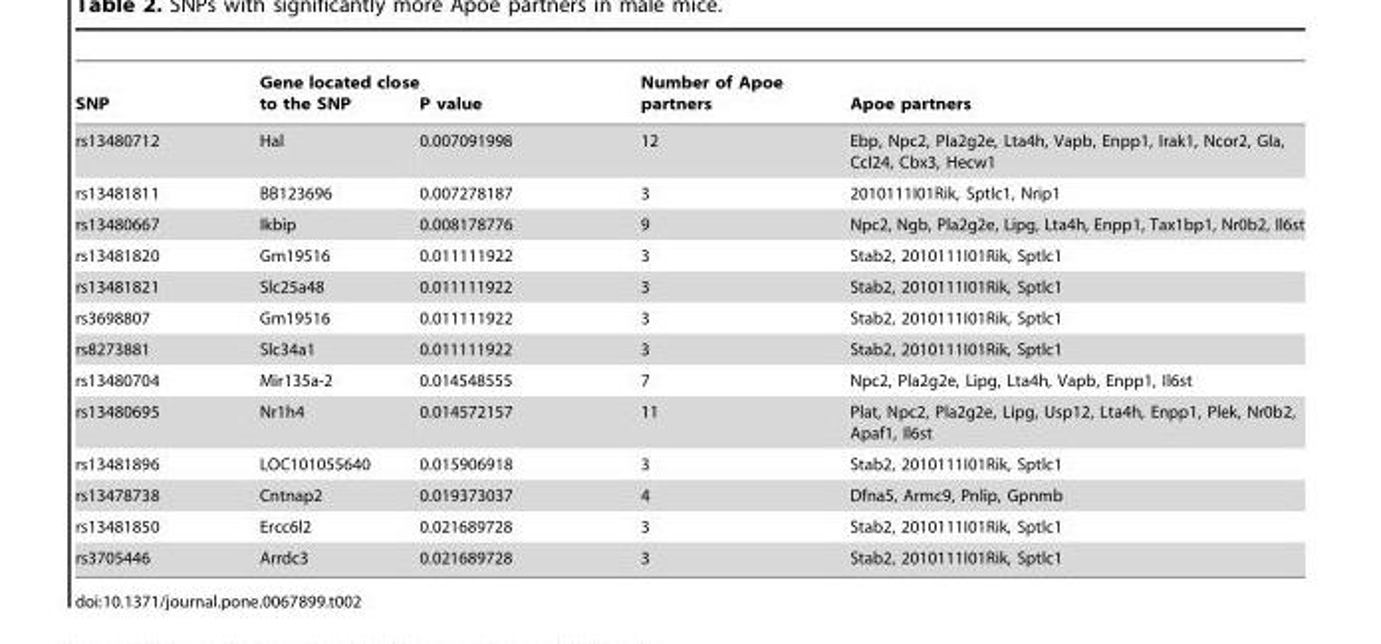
<table><thead><tr><td>SNP</td><td>Gene located close to the SNP</td><td>P value</td><td>Number of Apoe partners</td><td>Apoe partners</td></tr></thead><tbody><tr><td>rs13480712</td><td>Hal</td><td>0.007091998</td><td>12</td><td>Ebp, Npc2, Pla2g2e, Lta4h, Vapb, Enpp1, Irak1, Ncor2, Gla, Ccl24, Cbx3, Hecw1</td></tr><tr><td>rs13481811</td><td>BB123696</td><td>0.007278187</td><td>3</td><td>2010111I01Rik, Sptlc1, Nrip1</td></tr><tr><td>rs13480667</td><td>Ikbip</td><td>0.008178776</td><td>9</td><td>Npc2, Ngb, Pla2g2e, Lipg, Lta4h, Enpp1, Tax1bp1, Nr0b2, Il6st</td></tr><tr><td>rs13481820</td><td>Gm19516</td><td>0.011111922</td><td>3</td><td>Stab2, 2010111I01Rik, Sptlc1</td></tr><tr><td>rs13481821</td><td>Slc25a48</td><td>0.011111922</td><td>3</td><td>Stab2, 2010111I01Rik, Sptlc1</td></tr><tr><td>rs3698807</td><td>Gm19516</td><td>0.011111922</td><td>3</td><td>Stab2, 2010111I01Rik, Sptlc1</td></tr><tr><td>rs8273881</td><td>Slc34a1</td><td>0.011111922</td><td>3</td><td>Stab2, 2010111I01Rik, Sptlc1</td></tr><tr><td>rs13480704</td><td>Mir135a-2</td><td>0.014548555</td><td>7</td><td>Npc2, Pla2g2e, Lipg, Lta4h, Vapb, Enpp1, Il6st</td></tr><tr><td>rs13480695</td><td>Nr1h4</td><td>0.014572157</td><td>11</td><td>Plat, Npc2, Pla2g2e, Lipg, Usp12, Lta4h, Enpp1, Plek, Nr0b2, Apaf1, Il6st</td></tr><tr><td>rs13481896</td><td>LOC101055640</td><td>0.015906918</td><td>3</td><td>Stab2, 2010111I01Rik, Sptlc1</td></tr><tr><td>rs13478738</td><td>Cntnap2</td><td>0.019373037</td><td>4</td><td>Dfna5, Armc9, Pnlip, Gpnmb</td></tr><tr><td>rs13481850</td><td>Ercc6l2</td><td>0.021689728</td><td>3</td><td>Stab2, 2010111I01Rik, Sptlc1</td></tr><tr><td>rs3705446</td><td>Arrdc3</td><td>0.021689728</td><td>3</td><td>Stab2, 2010111I01Rik, Sptlc1</td></tr></tbody></table>